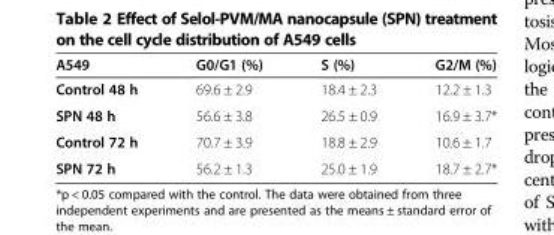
<table><thead><tr><td>A549</td><td>G0/G1 (%)</td><td>S (%)</td><td>G2/M (%)</td></tr></thead><tbody><tr><td>Control 48 h</td><td>69.6 ± 2.9</td><td>18.4 ± 2.3</td><td>12.2 ± 1.3</td></tr><tr><td>SPN 48 h</td><td>56.6 ± 3.8</td><td>26.5 ± 0.9</td><td>16.9 ± 3.7*</td></tr><tr><td>Control 72 h</td><td>70.7 ± 3.9</td><td>18.8 ± 2.9</td><td>10.6 ± 1.7</td></tr><tr><td>SPN 72 h</td><td>56.2 ± 1.3</td><td>25.0 ± 1.9</td><td>18.7 ± 2.7*</td></tr></tbody></table>